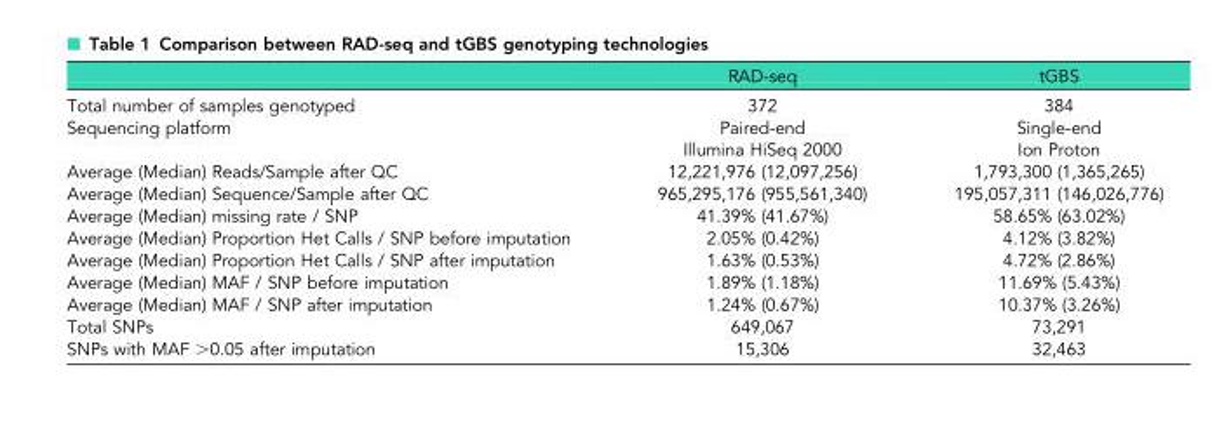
<table><thead><tr><td></td><td>RAD-seq</td><td>tGBS</td></tr></thead><tbody><tr><td>Total number of samples genotyped</td><td>372</td><td>384</td></tr><tr><td rowspan="2">Sequencing platform</td><td>Paired-end</td><td>Single-end</td></tr><tr><td>Illumina HiSeq 2000</td><td>Ion Proton</td></tr><tr><td>Average (Median) Reads/Sample after QC</td><td>12,221,976 (12,097,256)</td><td>1,793,300 (1,365,265)</td></tr><tr><td>Average (Median) Sequence/Sample after QC</td><td>965,295,176 (955,561,340)</td><td>195,057,311 (146,026,776)</td></tr><tr><td>Average (Median) missing rate / SNP</td><td>41.39% (41.67%)</td><td>58.65% (63.02%)</td></tr><tr><td>Average (Median) Proportion Het Calls / SNP before imputation</td><td>2.05% (0.42%)</td><td>4.12% (3.82%)</td></tr><tr><td>Average (Median) Proportion Het Calls / SNP after imputation</td><td>1.63% (0.53%)</td><td>4.72% (2.86%)</td></tr><tr><td>Average (Median) MAF / SNP before imputation</td><td>1.89% (1.18%)</td><td>11.69% (5.43%)</td></tr><tr><td>Average (Median) MAF / SNP after imputation</td><td>1.24% (0.67%)</td><td>10.37% (3.26%)</td></tr><tr><td>Total SNPs</td><td>649,067</td><td>73,291</td></tr><tr><td>SNPs with MAF &gt;0.05 after imputation</td><td>15,306</td><td>32,463</td></tr></tbody></table>